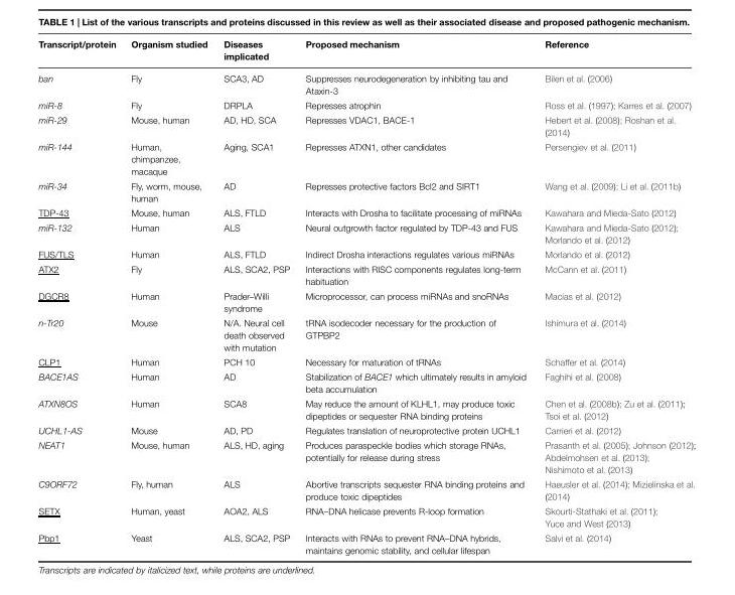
<table><thead><tr><td>Transcript/protein</td><td>Organism studied</td><td>Diseases implicated</td><td>Proposed mechanism</td><td>Reference</td></tr></thead><tbody><tr><td>ban</td><td>Fly</td><td>SCA3, AD</td><td>Suppresses neurodegeneration by inhibiting tau and Ataxin-3</td><td>Bilen et al. (2006)</td></tr><tr><td>miR-8</td><td>Fly</td><td>DRPLA</td><td>Represses atrophin</td><td>Ross et al. (1997); Karres et al. (2007)</td></tr><tr><td>miR-29</td><td>Mouse, human</td><td>AD, HD, SCA</td><td>Represses VDAC1, BACE-1</td><td>Hebert et al. (2008); Roshan et al. (2014)</td></tr><tr><td>miR-144</td><td>Human, chimpanzee, macaque</td><td>Aging, SCA1</td><td>Represses ATXN1, other candidates</td><td>Persengiev et al. (2011)</td></tr><tr><td>miR-34</td><td>Fly, worm, mouse, human</td><td>AD</td><td>Represses protective factors Bcl2 and SIRT1</td><td>Wang et al. (2009); Li et al. (2011b)</td></tr><tr><td>TDP-43</td><td>Mouse, human</td><td>ALS, FTLD</td><td>Interacts with Drosha to facilitate processing of miRNAs</td><td>Kawahara and Mieda-Sato (2012)</td></tr><tr><td>miR-132</td><td>Human</td><td>ALS</td><td>Neural outgrowth factor regulated by TDP-43 and FUS</td><td>Kawahara and Mieda-Sato (2012); Morlando et al. (2012)</td></tr><tr><td>FUS/TLS</td><td>Human</td><td>ALS, FTLD</td><td>Indirect Drosha interactions regulates various miRNAs</td><td>Morlando et al. (2012)</td></tr><tr><td>ATX2</td><td>Fly</td><td>ALS, SCA2, PSP</td><td>Interactions with RISC components regulates long-term habituation</td><td>McCann et al. (2011)</td></tr><tr><td>DGCR8</td><td>Human</td><td>Prader–Willi syndrome</td><td>Microprocessor, can process miRNAs and snoRNAs</td><td>Macias et al. (2012)</td></tr><tr><td>n-Tr20</td><td>Mouse</td><td>N/A. Neural cell death observed with mutation</td><td>tRNA isodecoder necessary for the production of GTPBP2</td><td>Ishimura et al. (2014)</td></tr><tr><td>CLP1</td><td>Human</td><td>PCH 10</td><td>Necessary for maturation of tRNAs</td><td>Schaffer et al. (2014)</td></tr><tr><td>BACE1AS</td><td>Human</td><td>AD</td><td>Stabilization of BACE1 which ultimately results in amyloid beta accumulation</td><td>Faghihi et al. (2008)</td></tr><tr><td>ATXN8OS</td><td>Human</td><td>SCA8</td><td>May reduce the amount of KLHL1, may produce toxic dipeptides or sequester RNA binding proteins</td><td>Chen et al. (2008b); Zu et al. (2011); Tsoi et al. (2012)</td></tr><tr><td>UCHL1-AS</td><td>Mouse</td><td>AD, PD</td><td>Regulates translation of neuroprotective protein UCHL1</td><td>Carrieri et al. (2012)</td></tr><tr><td>NEAT1</td><td>Mouse, human</td><td>ALS, HD, aging</td><td>Produces paraspeckle bodies which storage RNAs, potentially for release during stress</td><td>Prasanth et al. (2005); Johnson (2012); Abdelmohsen et al. (2013); Nishimoto et al. (2013)</td></tr><tr><td>C9ORF72</td><td>Fly, human</td><td>ALS</td><td>Abortive transcripts sequester RNA binding proteins and produce toxic dipeptides</td><td>Haeusler et al. (2014); Mizielinska et al. (2014)</td></tr><tr><td>SETX</td><td>Human, yeast</td><td>AOA2, ALS</td><td>RNA–DNA helicase prevents R-loop formation</td><td>Skourti-Stathaki et al. (2011); Yuce and West (2013)</td></tr><tr><td>Pbp1</td><td>Yeast</td><td>ALS, SCA2, PSP</td><td>Interacts with RNAs to prevent RNA–DNA hybrids, maintains genomic stability, and cellular lifespan</td><td>Salvi et al. (2014)</td></tr></tbody></table>